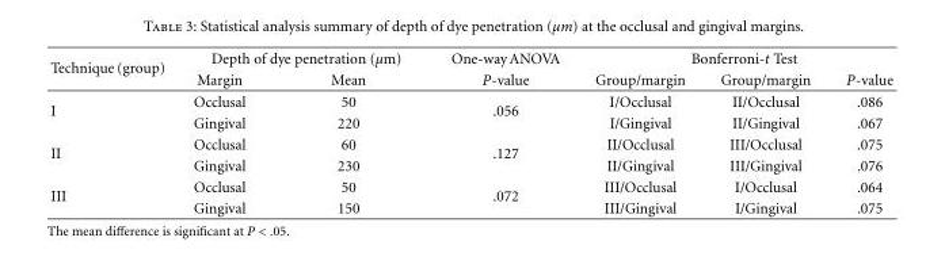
<table><thead><tr><td rowspan="2">Technique (group)</td><td colspan="2">Depth of dye penetration (µm)</td><td rowspan="2">One-way ANOVA P-value</td><td colspan="3">Bonferroni-t Test</td></tr><tr><td>Margin</td><td>Mean</td><td>Group/margin</td><td>Group/margin</td><td>P-value</td></tr></thead><tbody><tr><td rowspan="2">I</td><td>Occlusal</td><td>50</td><td rowspan="2">.056</td><td>I/Occlusal</td><td>II/Occlusal</td><td>.086</td></tr><tr><td>Gingival</td><td>220</td><td>I/Gingival</td><td>II/Gingival</td><td>.067</td></tr><tr><td rowspan="2">II</td><td>Occlusal</td><td>60</td><td rowspan="2">.127</td><td>II/Occlusal</td><td>III/Occlusal</td><td>.075</td></tr><tr><td>Gingival</td><td>230</td><td>II/Gingival</td><td>III/Gingival</td><td>.076</td></tr><tr><td rowspan="2">III</td><td>Occlusal</td><td>50</td><td rowspan="2">.072</td><td>III/Occlusal</td><td>I/Occlusal</td><td>.064</td></tr><tr><td>Gingival</td><td>150</td><td>III/Gingival</td><td>I/Gingival</td><td>.075</td></tr></tbody></table>